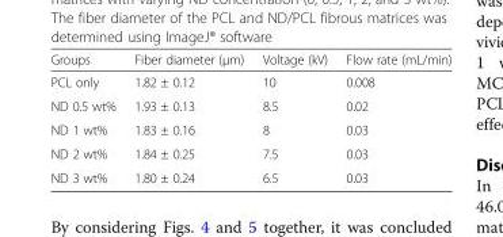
<table><thead><tr><td>Groups</td><td>Fiber diameter (μm)</td><td>Voltage (kV)</td><td>Flow rate (mL/min)</td></tr></thead><tbody><tr><td>PCL only</td><td>1.82 ± 0.12</td><td>10</td><td>0.008</td></tr><tr><td>ND 0.5 wt%</td><td>1.93 ± 0.13</td><td>8.5</td><td>0.02</td></tr><tr><td>ND 1 wt%</td><td>1.83 ± 0.16</td><td>8</td><td>0.03</td></tr><tr><td>ND 2 wt%</td><td>1.84 ± 0.25</td><td>7.5</td><td>0.03</td></tr><tr><td>ND 3 wt%</td><td>1.80 ± 0.24</td><td>6.5</td><td>0.03</td></tr></tbody></table>